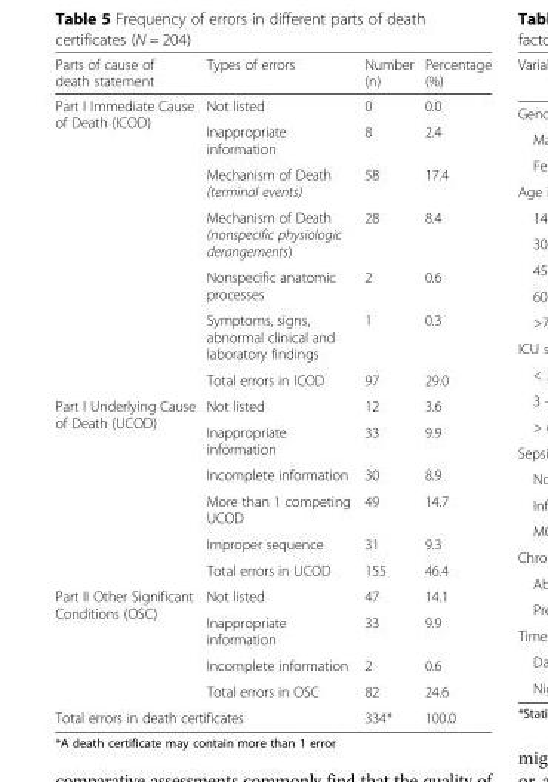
<table><thead><tr><td>Parts of cause of death statement</td><td>Types of errors</td><td>Number (n)</td><td>Percentage (%)</td></tr></thead><tbody><tr><td rowspan="7">Part I Immediate Cause of Death (ICOD)</td><td>Not listed</td><td>0</td><td>0.0</td></tr><tr><td>Inappropriate information</td><td>8</td><td>2.4</td></tr><tr><td>Mechanism of Death (terminal events)</td><td>58</td><td>17.4</td></tr><tr><td>Mechanism of Death (nonspecific physiologic derangements)</td><td>28</td><td>8.4</td></tr><tr><td>Nonspecific anatomic processes</td><td>2</td><td>0.6</td></tr><tr><td>Symptoms, signs, abnormal clinical and laboratory findings</td><td>1</td><td>0.3</td></tr><tr><td>Total errors in ICOD</td><td>97</td><td>29.0</td></tr><tr><td rowspan="6">Part I Underlying Cause of Death (UCOD)</td><td>Not listed</td><td>12</td><td>3.6</td></tr><tr><td>Inappropriate information</td><td>33</td><td>9.9</td></tr><tr><td>Incomplete information</td><td>30</td><td>8.9</td></tr><tr><td>More than 1 competing UCOD</td><td>49</td><td>14.7</td></tr><tr><td>Improper sequence</td><td>31</td><td>9.3</td></tr><tr><td>Total errors in UCOD</td><td>155</td><td>46.4</td></tr><tr><td rowspan="4">Part II Other Significant Conditions (OSC)</td><td>Not listed</td><td>47</td><td>14.1</td></tr><tr><td>Inappropriate information</td><td>33</td><td>9.9</td></tr><tr><td>Incomplete information</td><td>2</td><td>0.6</td></tr><tr><td>Total errors in OSC</td><td>82</td><td>24.6</td></tr><tr><td colspan="2">Total errors in death certificates</td><td>334*</td><td>100.0</td></tr></tbody></table>